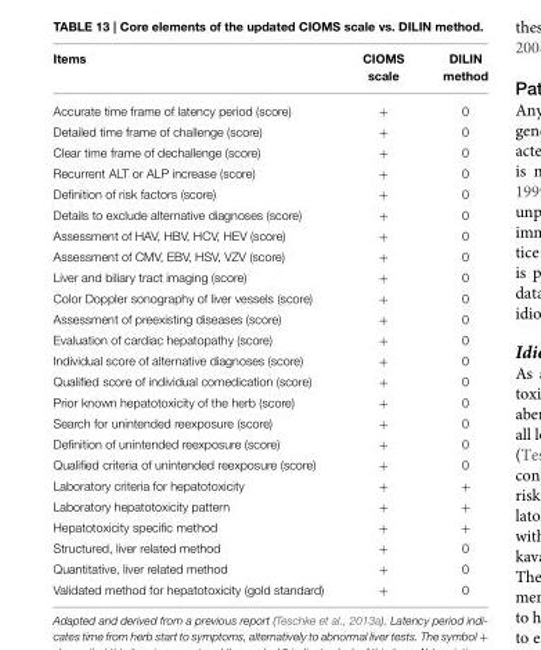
<table><thead><tr><td>Items</td><td>CIOMS scale</td><td>DILIN method</td></tr></thead><tbody><tr><td>Accurate time frame of latency period (score)</td><td>+</td><td>0</td></tr><tr><td>Detailed time frame of challenge (score)</td><td>+</td><td>0</td></tr><tr><td>Clear time frame of dechallenge (score)</td><td>+</td><td>0</td></tr><tr><td>Recurrent ALT or ALP increase (score)</td><td>+</td><td>0</td></tr><tr><td>Definition of risk factors (score)</td><td>+</td><td>0</td></tr><tr><td>Details to exclude alternative diagnoses (score)</td><td>+</td><td>0</td></tr><tr><td>Assessment of HAV, HBV, HCV, HEV (score)</td><td>+</td><td>0</td></tr><tr><td>Assessment of CMV, EBV, HSV, VZV (score)</td><td>+</td><td>0</td></tr><tr><td>Liver and biliary tract imaging (score)</td><td>+</td><td>0</td></tr><tr><td>Color Doppler sonography of liver vessels (score)</td><td>+</td><td>0</td></tr><tr><td>Assessment of preexisting diseases (score)</td><td>+</td><td>0</td></tr><tr><td>Evaluation of cardiac hepatopathy (score)</td><td>+</td><td>0</td></tr><tr><td>Individual score of alternative diagnoses (score)</td><td>+</td><td>0</td></tr><tr><td>Qualified score of individual comedication (score)</td><td>+</td><td>0</td></tr><tr><td>Prior known hepatotoxicity of the herb (score)</td><td>+</td><td>0</td></tr><tr><td>Search for unintended reexposure (score)</td><td>+</td><td>0</td></tr><tr><td>Definition of unintended reexposure (score)</td><td>+</td><td>0</td></tr><tr><td>Qualified criteria of unintended reexposure (score)</td><td>+</td><td>0</td></tr><tr><td>Laboratory criteria for hepatotoxicity</td><td>+</td><td>+</td></tr><tr><td>Laboratory hepatotoxicity pattern</td><td>+</td><td>+</td></tr><tr><td>Hepatotoxicity specific method</td><td>+</td><td>+</td></tr><tr><td>Structured, liver related method</td><td>+</td><td>0</td></tr><tr><td>Quantitative, liver related method</td><td>+</td><td>0</td></tr><tr><td>Validated method for hepatotoxicity (gold standard)</td><td>+</td><td>0</td></tr></tbody></table>